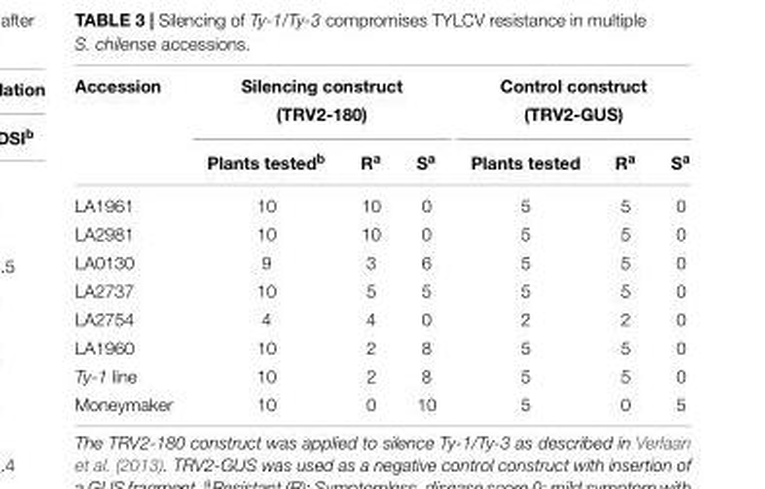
<table><thead><tr><td rowspan="2">Accession</td><td colspan="3">Silencing construct (TRV2-180)</td><td colspan="3">Control construct (TRV2-GUS)</td></tr><tr><td>Plants tested<sup>b</sup></td><td>R<sup>a</sup></td><td>S<sup>a</sup></td><td>Plants tested</td><td>R<sup>a</sup></td><td>S<sup>a</sup></td></tr></thead><tbody><tr><td>LA1961</td><td>10</td><td>10</td><td>0</td><td>5</td><td>5</td><td>0</td></tr><tr><td>LA2981</td><td>10</td><td>10</td><td>0</td><td>5</td><td>5</td><td>0</td></tr><tr><td>LA0130</td><td>9</td><td>3</td><td>6</td><td>5</td><td>5</td><td>0</td></tr><tr><td>LA2737</td><td>10</td><td>5</td><td>5</td><td>5</td><td>5</td><td>0</td></tr><tr><td>LA2754</td><td>4</td><td>4</td><td>0</td><td>2</td><td>2</td><td>0</td></tr><tr><td>LA1960</td><td>10</td><td>2</td><td>8</td><td>5</td><td>5</td><td>0</td></tr><tr><td>Ty-1 line</td><td>10</td><td>2</td><td>8</td><td>5</td><td>5</td><td>0</td></tr><tr><td>Moneymaker</td><td>10</td><td>0</td><td>10</td><td>5</td><td>0</td><td>5</td></tr></tbody></table>